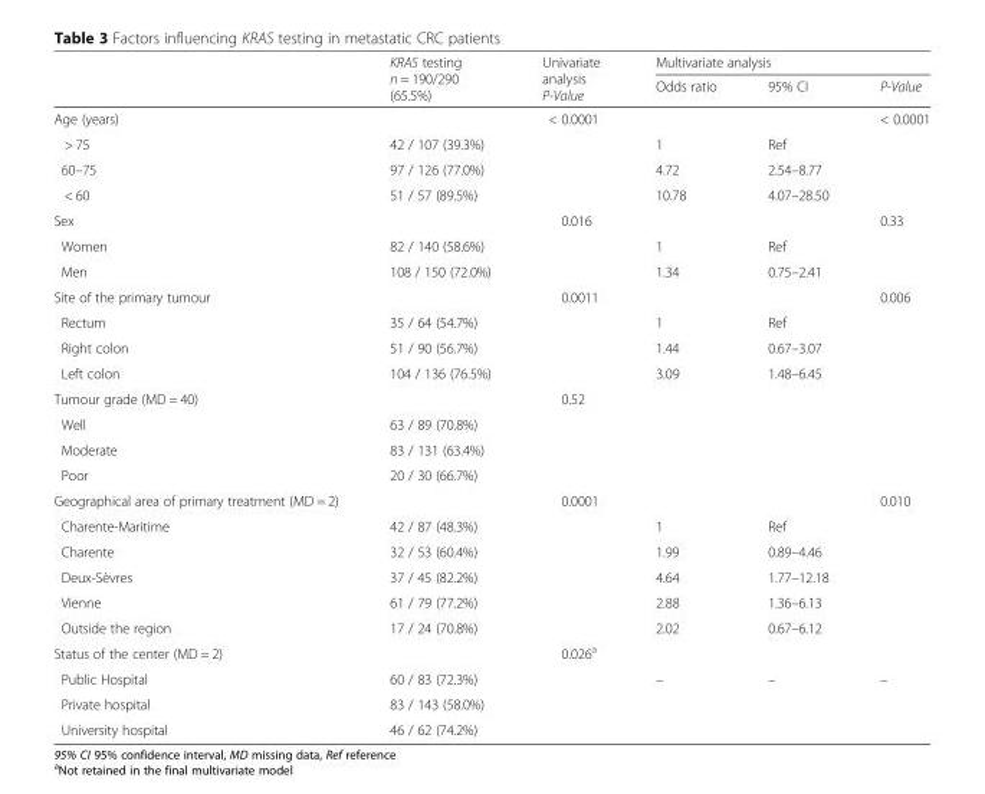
<table><thead><tr><td rowspan="2"></td><td rowspan="2">KRAS testing n = 190/290 (65.5%)</td><td rowspan="2">Univariate analysis P-Value</td><td colspan="3">Multivariate analysis</td></tr><tr><td>Odds ratio</td><td>95% CI</td><td>P-Value</td></tr></thead><tbody><tr><td>Age (years)</td><td></td><td>&lt; 0.0001</td><td></td><td></td><td>&lt; 0.0001</td></tr><tr><td>&gt; 75</td><td>42 / 107 (39.3%)</td><td></td><td>1</td><td>Ref</td><td></td></tr><tr><td>60–75</td><td>97 / 126 (77.0%)</td><td></td><td>4.72</td><td>2.54–8.77</td><td></td></tr><tr><td>&lt; 60</td><td>51 / 57 (89.5%)</td><td></td><td>10.78</td><td>4.07–28.50</td><td></td></tr><tr><td>Sex</td><td></td><td>0.016</td><td></td><td></td><td>0.33</td></tr><tr><td>Women</td><td>82 / 140 (58.6%)</td><td></td><td>1</td><td>Ref</td><td></td></tr><tr><td>Men</td><td>108 / 150 (72.0%)</td><td></td><td>1.34</td><td>0.75–2.41</td><td></td></tr><tr><td>Site of the primary tumour</td><td></td><td>0.0011</td><td></td><td></td><td>0.006</td></tr><tr><td>Rectum</td><td>35 / 64 (54.7%)</td><td></td><td>1</td><td>Ref</td><td></td></tr><tr><td>Right colon</td><td>51 / 90 (56.7%)</td><td></td><td>1.44</td><td>0.67–3.07</td><td></td></tr><tr><td>Left colon</td><td>104 / 136 (76.5%)</td><td></td><td>3.09</td><td>1.48–6.45</td><td></td></tr><tr><td>Tumour grade (MD = 40)</td><td></td><td>0.52</td><td></td><td></td><td></td></tr><tr><td>Well</td><td>63 / 89 (70.8%)</td><td></td><td></td><td></td><td></td></tr><tr><td>Moderate</td><td>83 / 131 (63.4%)</td><td></td><td></td><td></td><td></td></tr><tr><td>Poor</td><td>20 / 30 (66.7%)</td><td></td><td></td><td></td><td></td></tr><tr><td>Geographical area of primary treatment (MD = 2)</td><td></td><td>0.0001</td><td></td><td></td><td>0.010</td></tr><tr><td>Charente-Maritime</td><td>42 / 87 (48.3%)</td><td></td><td>1</td><td>Ref</td><td></td></tr><tr><td>Charente</td><td>32 / 53 (60.4%)</td><td></td><td>1.99</td><td>0.89–4.46</td><td></td></tr><tr><td>Deux-Sèvres</td><td>37 / 45 (82.2%)</td><td></td><td>4.64</td><td>1.77–12.18</td><td></td></tr><tr><td>Vienne</td><td>61 / 79 (77.2%)</td><td></td><td>2.88</td><td>1.36–6.13</td><td></td></tr><tr><td>Outside the region</td><td>17 / 24 (70.8%)</td><td></td><td>2.02</td><td>0.67–6.12</td><td></td></tr><tr><td>Status of the center (MD = 2)</td><td></td><td>0.026<sup>a</sup></td><td></td><td></td><td></td></tr><tr><td>Public Hospital</td><td>60 / 83 (72.3%)</td><td></td><td>–</td><td>–</td><td>–</td></tr><tr><td>Private hospital</td><td>83 / 143 (58.0%)</td><td></td><td></td><td></td><td></td></tr><tr><td>University hospital</td><td>46 / 62 (74.2%)</td><td></td><td></td><td></td><td></td></tr></tbody></table>